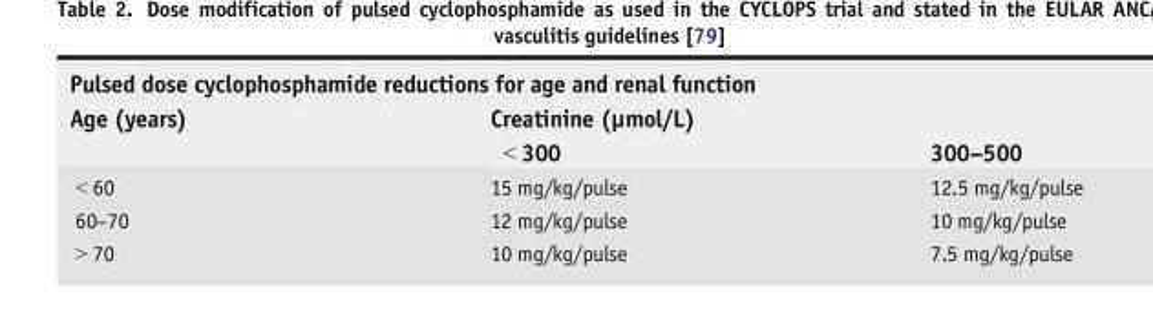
<table><thead><tr><td colspan="3">Pulsed dose cyclophosphamide reductions for age and renal function</td></tr><tr><td rowspan="2">Age (years)</td><td colspan="2">Creatinine (μmol/L)</td></tr><tr><td>&lt; 300</td><td>300–500</td></tr></thead><tbody><tr><td>&lt; 60</td><td>15 mg/kg/pulse</td><td>12.5 mg/kg/pulse</td></tr><tr><td>60–70</td><td>12 mg/kg/pulse</td><td>10 mg/kg/pulse</td></tr><tr><td>&gt; 70</td><td>10 mg/kg/pulse</td><td>7.5 mg/kg/pulse</td></tr></tbody></table>